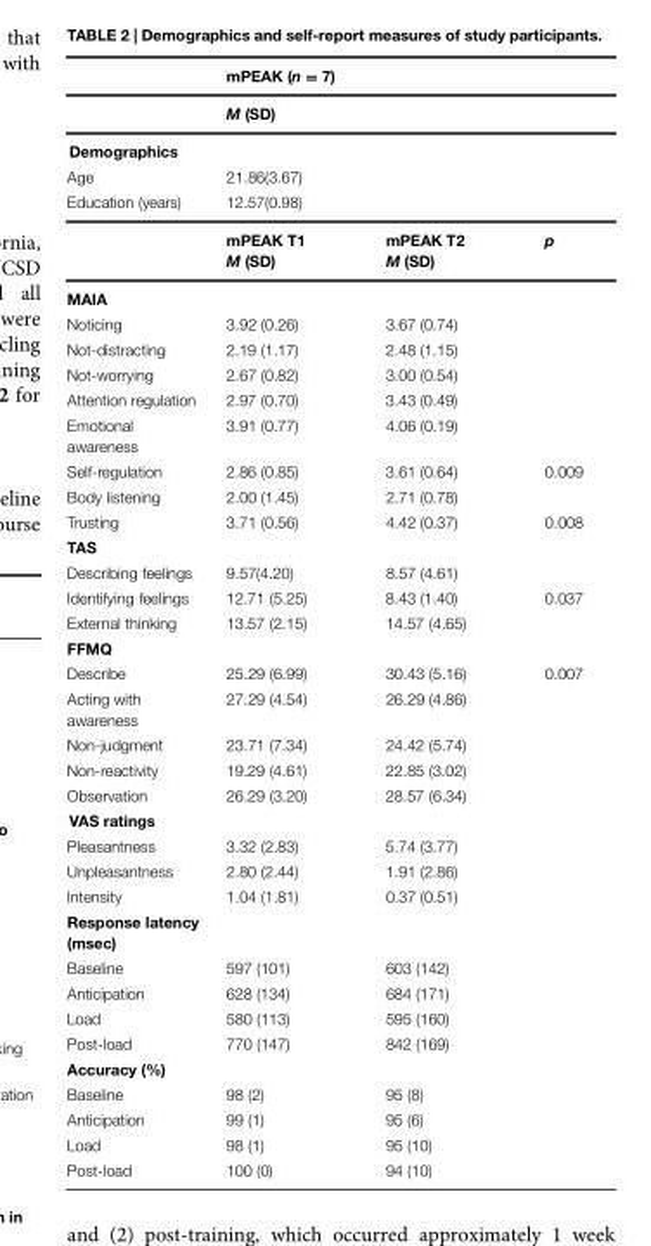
<table><thead><tr><td rowspan="2"></td><td rowspan="2">mPEAK (n = 7) M (SD)</td><td rowspan="2"></td><td rowspan="2"></td></tr><tr></tr></thead><tbody><tr><td colspan="4">Demographics</td></tr><tr><td>Age</td><td>21.86(3.67)</td><td></td><td></td></tr><tr><td rowspan="2">Education (years)</td><td>12.57(0.98)</td><td></td><td></td></tr><tr><td>mPEAK T1 M (SD)</td><td>mPEAK T2 M (SD)</td><td>p</td></tr><tr><td colspan="4">MAIA</td></tr><tr><td>Noticing</td><td>3.92 (0.26)</td><td>3.67 (0.74)</td><td></td></tr><tr><td>Not-distracting</td><td>2.19 (1.17)</td><td>2.48 (1.15)</td><td></td></tr><tr><td>Not-worrying</td><td>2.67 (0.82)</td><td>3.00 (0.54)</td><td></td></tr><tr><td>Attention regulation</td><td>2.97 (0.70)</td><td>3.43 (0.49)</td><td></td></tr><tr><td>Emotional awareness</td><td>3.91 (0.77)</td><td>4.06 (0.19)</td><td></td></tr><tr><td>Self-regulation</td><td>2.86 (0.85)</td><td>3.61 (0.64)</td><td>0.009</td></tr><tr><td>Body listening</td><td>2.00 (1.45)</td><td>2.71 (0.78)</td><td></td></tr><tr><td>Trusting</td><td>3.71 (0.56)</td><td>4.42 (0.37)</td><td>0.008</td></tr><tr><td colspan="4">TAS</td></tr><tr><td>Describing feelings</td><td>9.57(4.20)</td><td>8.57 (4.61)</td><td></td></tr><tr><td>Identifying feelings</td><td>12.71 (5.25)</td><td>8.43 (1.40)</td><td>0.037</td></tr><tr><td>External thinking</td><td>13.57 (2.15)</td><td>14.57 (4.65)</td><td></td></tr><tr><td colspan="4">FFMQ</td></tr><tr><td>Describe</td><td>25.29 (6.99)</td><td>30.43 (5.16)</td><td>0.007</td></tr><tr><td>Acting with awareness</td><td>27.29 (4.54)</td><td>26.29 (4.86)</td><td></td></tr><tr><td>Non-judgment</td><td>23.71 (7.34)</td><td>24.42 (5.74)</td><td></td></tr><tr><td>Non-reactivity</td><td>19.29 (4.61)</td><td>22.85 (3.02)</td><td></td></tr><tr><td>Observation</td><td>26.29 (3.20)</td><td>28.57 (6.34)</td><td></td></tr><tr><td colspan="4">VAS ratings</td></tr><tr><td>Pleasantness</td><td>3.32 (2.83)</td><td>5.74 (3.77)</td><td></td></tr><tr><td>Unpleasantness</td><td>2.80 (2.44)</td><td>1.91 (2.86)</td><td></td></tr><tr><td>Intensity</td><td>1.04 (1.81)</td><td>0.37 (0.51)</td><td></td></tr><tr><td colspan="4">Response latency (msec)</td></tr><tr><td>Baseline</td><td>597 (101)</td><td>603 (142)</td><td></td></tr><tr><td>Anticipation</td><td>628 (134)</td><td>684 (171)</td><td></td></tr><tr><td>Load</td><td>580 (113)</td><td>595 (160)</td><td></td></tr><tr><td>Post-load</td><td>770 (147)</td><td>842 (169)</td><td></td></tr><tr><td colspan="4">Accuracy (%)</td></tr><tr><td>Baseline</td><td>98 (2)</td><td>95 (8)</td><td></td></tr><tr><td>Anticipation</td><td>99 (1)</td><td>95 (6)</td><td></td></tr><tr><td>Load</td><td>98 (1)</td><td>95 (10)</td><td></td></tr><tr><td>Post-load</td><td>100 (0)</td><td>94 (10)</td><td></td></tr></tbody></table>